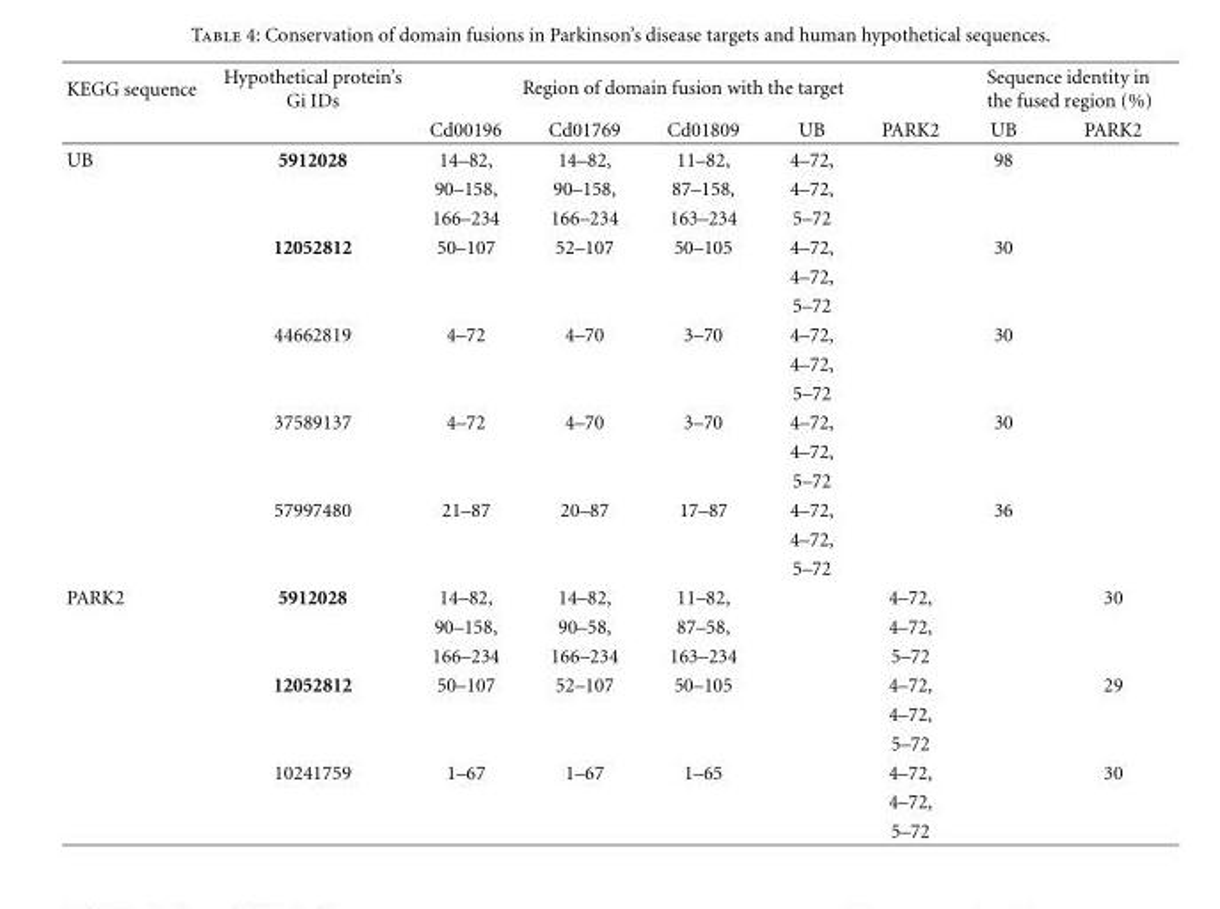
<table><thead><tr><td rowspan="2">KEGG sequence</td><td rowspan="2">Hypothetical protein’s Gi IDs</td><td colspan="5">Region of domain fusion with the target</td><td colspan="2">Sequence identity in the fused region (%)</td></tr><tr><td>Cd00196</td><td>Cd01769</td><td>Cd01809</td><td>UB</td><td>PARK2</td><td>UB</td><td>PARK2</td></tr></thead><tbody><tr><td rowspan="15">UB</td><td>5912028</td><td>14–82,</td><td>14–82,</td><td>11–82,</td><td>4–72,</td><td></td><td>98</td><td></td></tr><tr><td></td><td>90–158,</td><td>90–158,</td><td>87–158,</td><td>4–72,</td><td></td><td></td><td></td></tr><tr><td></td><td>166–234</td><td>166–234</td><td>163–234</td><td>5–72</td><td></td><td></td><td></td></tr><tr><td>12052812</td><td>50–107</td><td>52–107</td><td>50–105</td><td>4–72,</td><td></td><td>30</td><td></td></tr><tr><td></td><td></td><td></td><td></td><td>4–72,</td><td></td><td></td><td></td></tr><tr><td></td><td></td><td></td><td></td><td>5–72</td><td></td><td></td><td></td></tr><tr><td>44662819</td><td>4–72</td><td>4–70</td><td>3–70</td><td>4–72,</td><td></td><td>30</td><td></td></tr><tr><td></td><td></td><td></td><td></td><td>4–72,</td><td></td><td></td><td></td></tr><tr><td></td><td></td><td></td><td></td><td>5–72</td><td></td><td></td><td></td></tr><tr><td>37589137</td><td>4–72</td><td>4–70</td><td>3–70</td><td>4–72,</td><td></td><td>30</td><td></td></tr><tr><td></td><td></td><td></td><td></td><td>4–72,</td><td></td><td></td><td></td></tr><tr><td></td><td></td><td></td><td></td><td>5–72</td><td></td><td></td><td></td></tr><tr><td>57997480</td><td>21–87</td><td>20–87</td><td>17–87</td><td>4–72,</td><td></td><td>36</td><td></td></tr><tr><td></td><td></td><td></td><td></td><td>4–72,</td><td></td><td></td><td></td></tr><tr><td></td><td></td><td></td><td></td><td>5–72</td><td></td><td></td><td></td></tr><tr><td rowspan="9">PARK2</td><td>5912028</td><td>14–82,</td><td>14–82,</td><td>11–82,</td><td></td><td>4–72,</td><td></td><td>30</td></tr><tr><td></td><td>90–158,</td><td>90–58,</td><td>87–58,</td><td></td><td>4–72,</td><td></td><td></td></tr><tr><td></td><td>166–234</td><td>166–234</td><td>163–234</td><td></td><td>5–72</td><td></td><td></td></tr><tr><td>12052812</td><td>50–107</td><td>52–107</td><td>50–105</td><td></td><td>4–72,</td><td></td><td>29</td></tr><tr><td></td><td></td><td></td><td></td><td></td><td>4–72,</td><td></td><td></td></tr><tr><td></td><td></td><td></td><td></td><td></td><td>5–72</td><td></td><td></td></tr><tr><td>10241759</td><td>1–67</td><td>1–67</td><td>1–65</td><td></td><td>4–72,</td><td></td><td>30</td></tr><tr><td></td><td></td><td></td><td></td><td></td><td>4–72,</td><td></td><td></td></tr><tr><td></td><td></td><td></td><td></td><td></td><td>5–72</td><td></td><td></td></tr></tbody></table>